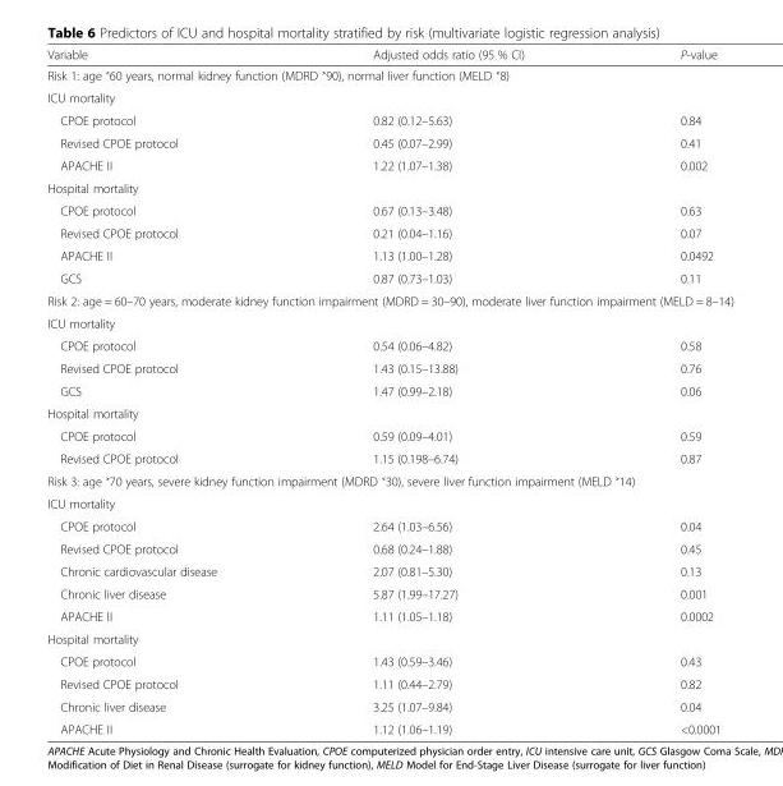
<table><thead><tr><td>Variable</td><td>Adjusted odds ratio (95 % CI)</td><td>P-value</td></tr></thead><tbody><tr><td colspan="3">Risk 1: age ˂60 years, normal kidney function (MDRD ˃90), normal liver function (MELD ˂8)</td></tr><tr><td colspan="3">ICU mortality</td></tr><tr><td>CPOE protocol</td><td>0.82 (0.12–5.63)</td><td>0.84</td></tr><tr><td>Revised CPOE protocol</td><td>0.45 (0.07–2.99)</td><td>0.41</td></tr><tr><td>APACHE II</td><td>1.22 (1.07–1.38)</td><td>0.002</td></tr><tr><td colspan="3">Hospital mortality</td></tr><tr><td>CPOE protocol</td><td>0.67 (0.13–3.48)</td><td>0.63</td></tr><tr><td>Revised CPOE protocol</td><td>0.21 (0.04–1.16)</td><td>0.07</td></tr><tr><td>APACHE II</td><td>1.13 (1.00–1.28)</td><td>0.0492</td></tr><tr><td>GCS</td><td>0.87 (0.73–1.03)</td><td>0.11</td></tr><tr><td colspan="3">Risk 2: age = 60–70 years, moderate kidney function impairment (MDRD = 30–90), moderate liver function impairment (MELD = 8–14)</td></tr><tr><td colspan="3">ICU mortality</td></tr><tr><td>CPOE protocol</td><td>0.54 (0.06–4.82)</td><td>0.58</td></tr><tr><td>Revised CPOE protocol</td><td>1.43 (0.15–13.88)</td><td>0.76</td></tr><tr><td>GCS</td><td>1.47 (0.99–2.18)</td><td>0.06</td></tr><tr><td colspan="3">Hospital mortality</td></tr><tr><td>CPOE protocol</td><td>0.59 (0.09–4.01)</td><td>0.59</td></tr><tr><td>Revised CPOE protocol</td><td>1.15 (0.198–6.74)</td><td>0.87</td></tr><tr><td colspan="3">Risk 3: age ˃70 years, severe kidney function impairment (MDRD ˂30), severe liver function impairment (MELD ˃14)</td></tr><tr><td colspan="3">ICU mortality</td></tr><tr><td>CPOE protocol</td><td>2.64 (1.03–6.56)</td><td>0.04</td></tr><tr><td>Revised CPOE protocol</td><td>0.68 (0.24–1.88)</td><td>0.45</td></tr><tr><td>Chronic cardiovascular disease</td><td>2.07 (0.81–5.30)</td><td>0.13</td></tr><tr><td>Chronic liver disease</td><td>5.87 (1.99–17.27)</td><td>0.001</td></tr><tr><td>APACHE II</td><td>1.11 (1.05–1.18)</td><td>0.0002</td></tr><tr><td colspan="3">Hospital mortality</td></tr><tr><td>CPOE protocol</td><td>1.43 (0.59–3.46)</td><td>0.43</td></tr><tr><td>Revised CPOE protocol</td><td>1.11 (0.44–2.79)</td><td>0.82</td></tr><tr><td>Chronic liver disease</td><td>3.25 (1.07–9.84)</td><td>0.04</td></tr><tr><td>APACHE II</td><td>1.12 (1.06–1.19)</td><td>&lt;0.0001</td></tr></tbody></table>